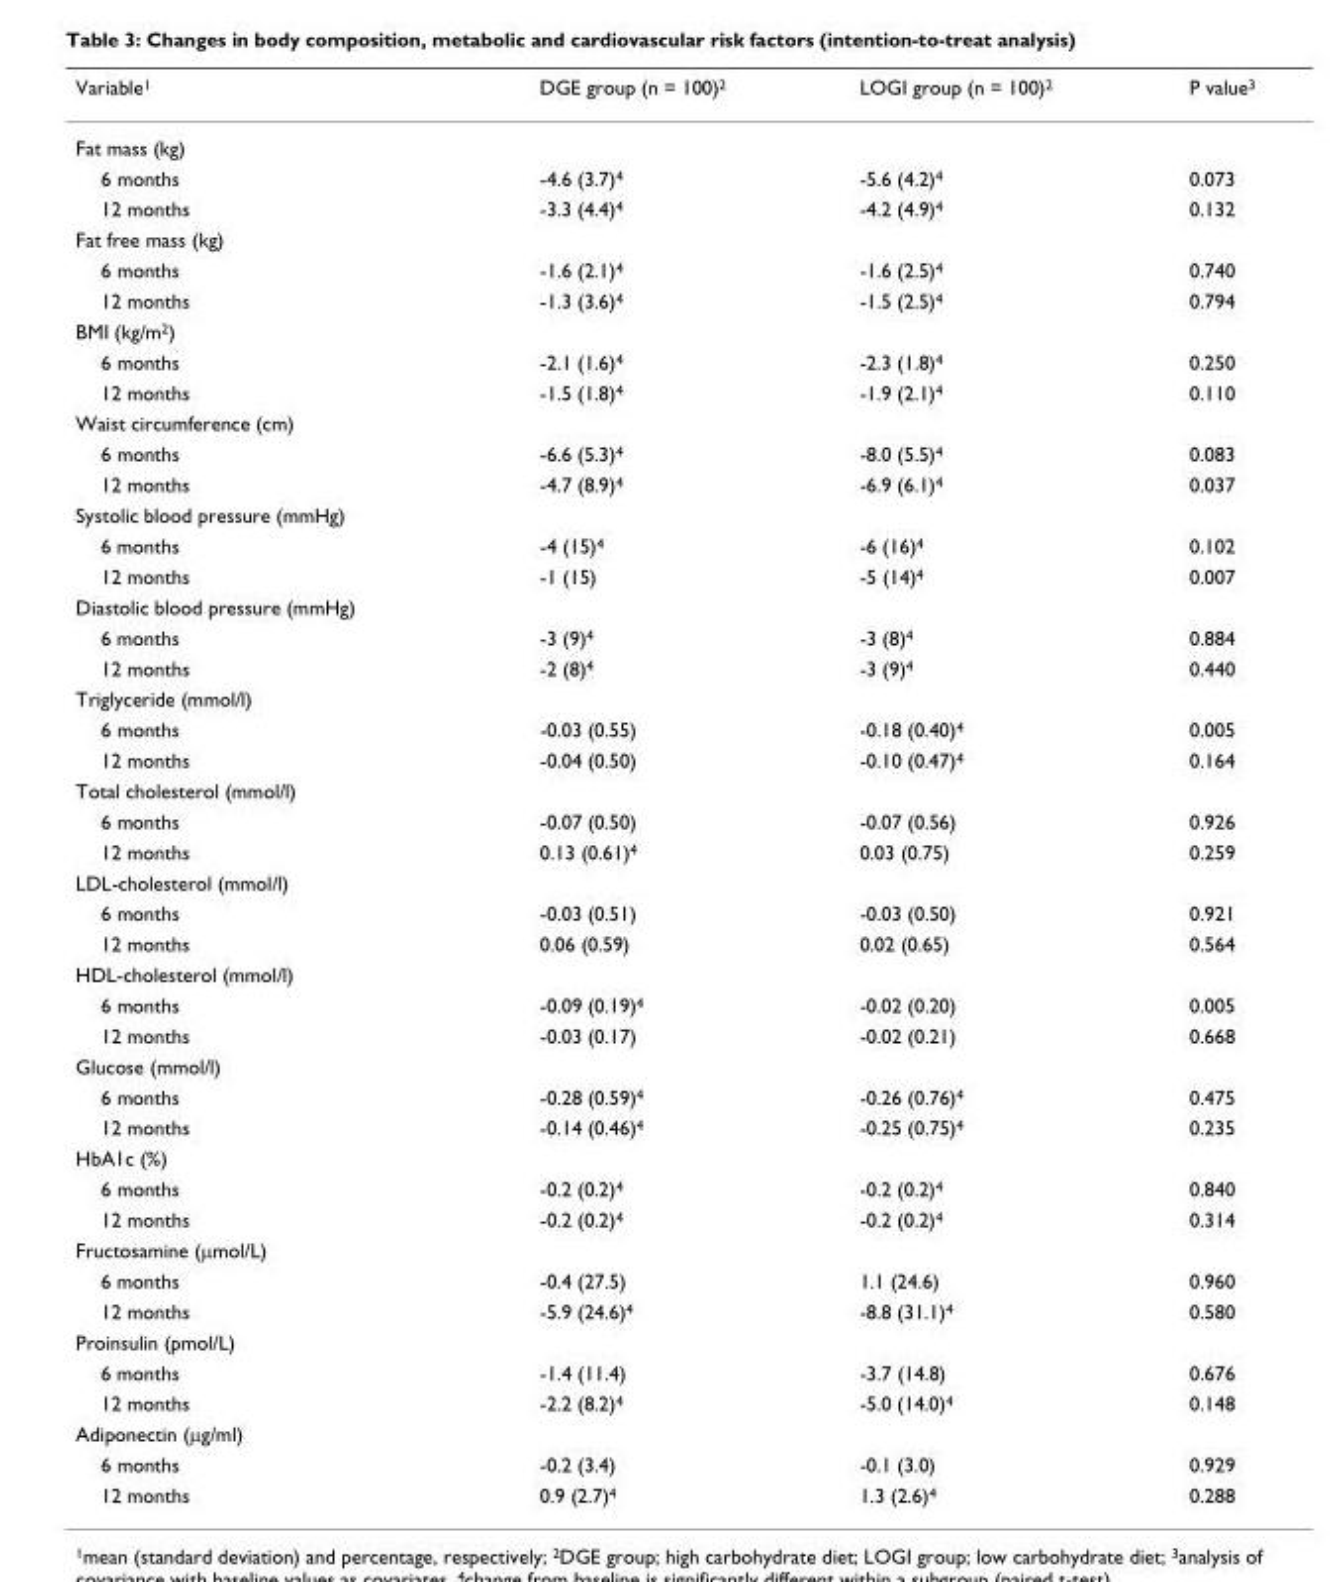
<table><thead><tr><td>Variable<sup>1</sup></td><td>DGE group (n = 100)<sup>2</sup></td><td>LOGI group (n = 100)<sup>2</sup></td><td>P value<sup>3</sup></td></tr></thead><tbody><tr><td colspan="4">Fat mass (kg)</td></tr><tr><td>6 months</td><td>-4.6 (3.7)<sup>4</sup></td><td>-5.6 (4.2)<sup>4</sup></td><td>0.073</td></tr><tr><td>12 months</td><td>-3.3 (4.4)<sup>4</sup></td><td>-4.2 (4.9)<sup>4</sup></td><td>0.132</td></tr><tr><td colspan="4">Fat free mass (kg)</td></tr><tr><td>6 months</td><td>-1.6 (2.1)<sup>4</sup></td><td>-1.6 (2.5)<sup>4</sup></td><td>0.740</td></tr><tr><td>12 months</td><td>-1.3 (3.6)<sup>4</sup></td><td>-1.5 (2.5)<sup>4</sup></td><td>0.794</td></tr><tr><td colspan="4">BMI (kg/m<sup>2</sup>)</td></tr><tr><td>6 months</td><td>-2.1 (1.6)<sup>4</sup></td><td>-2.3 (1.8)<sup>4</sup></td><td>0.250</td></tr><tr><td>12 months</td><td>-1.5 (1.8)<sup>4</sup></td><td>-1.9 (2.1)<sup>4</sup></td><td>0.110</td></tr><tr><td colspan="4">Waist circumference (cm)</td></tr><tr><td>6 months</td><td>-6.6 (5.3)<sup>4</sup></td><td>-8.0 (5.5)<sup>4</sup></td><td>0.083</td></tr><tr><td>12 months</td><td>-4.7 (8.9)<sup>4</sup></td><td>-6.9 (6.1)<sup>4</sup></td><td>0.037</td></tr><tr><td colspan="4">Systolic blood pressure (mmHg)</td></tr><tr><td>6 months</td><td>-4 (15)<sup>4</sup></td><td>-6 (16)<sup>4</sup></td><td>0.102</td></tr><tr><td>12 months</td><td>-1 (15)</td><td>-5 (14)<sup>4</sup></td><td>0.007</td></tr><tr><td colspan="4">Diastolic blood pressure (mmHg)</td></tr><tr><td>6 months</td><td>-3 (9)<sup>4</sup></td><td>-3 (8)<sup>4</sup></td><td>0.884</td></tr><tr><td>12 months</td><td>-2 (8)<sup>4</sup></td><td>-3 (9)<sup>4</sup></td><td>0.440</td></tr><tr><td colspan="4">Triglyceride (mmol/l)</td></tr><tr><td>6 months</td><td>-0.03 (0.55)</td><td>-0.18 (0.40)<sup>4</sup></td><td>0.005</td></tr><tr><td>12 months</td><td>-0.04 (0.50)</td><td>-0.10 (0.47)<sup>4</sup></td><td>0.164</td></tr><tr><td colspan="4">Total cholesterol (mmol/l)</td></tr><tr><td>6 months</td><td>-0.07 (0.50)</td><td>-0.07 (0.56)</td><td>0.926</td></tr><tr><td>12 months</td><td>0.13 (0.61)<sup>4</sup></td><td>0.03 (0.75)</td><td>0.259</td></tr><tr><td colspan="4">LDL-cholesterol (mmol/l)</td></tr><tr><td>6 months</td><td>-0.03 (0.51)</td><td>-0.03 (0.50)</td><td>0.921</td></tr><tr><td>12 months</td><td>0.06 (0.59)</td><td>0.02 (0.65)</td><td>0.564</td></tr><tr><td colspan="4">HDL-cholesterol (mmol/l)</td></tr><tr><td>6 months</td><td>-0.09 (0.19)<sup>4</sup></td><td>-0.02 (0.20)</td><td>0.005</td></tr><tr><td>12 months</td><td>-0.03 (0.17)</td><td>-0.02 (0.21)</td><td>0.668</td></tr><tr><td colspan="4">Glucose (mmol/l)</td></tr><tr><td>6 months</td><td>-0.28 (0.59)<sup>4</sup></td><td>-0.26 (0.76)<sup>4</sup></td><td>0.475</td></tr><tr><td>12 months</td><td>-0.14 (0.46)<sup>4</sup></td><td>-0.25 (0.75)<sup>4</sup></td><td>0.235</td></tr><tr><td colspan="4">HbA1c (%)</td></tr><tr><td>6 months</td><td>-0.2 (0.2)<sup>4</sup></td><td>-0.2 (0.2)<sup>4</sup></td><td>0.840</td></tr><tr><td>12 months</td><td>-0.2 (0.2)<sup>4</sup></td><td>-0.2 (0.2)<sup>4</sup></td><td>0.314</td></tr><tr><td colspan="4">Fructosamine (μmol/L)</td></tr><tr><td>6 months</td><td>-0.4 (27.5)</td><td>1.1 (24.6)</td><td>0.960</td></tr><tr><td>12 months</td><td>-5.9 (24.6)<sup>4</sup></td><td>-8.8 (31.1)<sup>4</sup></td><td>0.580</td></tr><tr><td colspan="4">Proinsulin (pmol/L)</td></tr><tr><td>6 months</td><td>-1.4 (11.4)</td><td>-3.7 (14.8)</td><td>0.676</td></tr><tr><td>12 months</td><td>-2.2 (8.2)<sup>4</sup></td><td>-5.0 (14.0)<sup>4</sup></td><td>0.148</td></tr><tr><td colspan="4">Adiponectin (μg/ml)</td></tr><tr><td>6 months</td><td>-0.2 (3.4)</td><td>-0.1 (3.0)</td><td>0.929</td></tr><tr><td>12 months</td><td>0.9 (2.7)<sup>4</sup></td><td>1.3 (2.6)<sup>4</sup></td><td>0.288</td></tr></tbody></table>